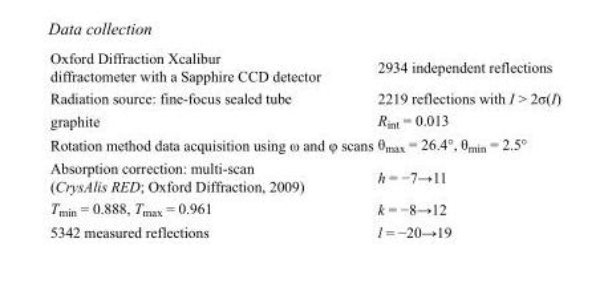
<table><tbody><tr><td>Oxford Diffraction Xcalibur diffractometer with a Sapphire CCD detector</td><td>2934 independent reflections</td></tr><tr><td>Radiation source: fine-focus sealed tube</td><td>2219 reflections with I &gt; 2σ(I)</td></tr><tr><td>graphite</td><td>R<sub>int</sub> = 0.013</td></tr><tr><td>Rotation method data acquisition using ω and φ scans</td><td>θ<sub>max</sub> = 26.4°, θ<sub>min</sub> = 2.5°</td></tr><tr><td>Absorption correction: multi-scan (CrysAlis RED; Oxford Diffraction, 2009)</td><td>h = −7→11</td></tr><tr><td>T<sub>min</sub> = 0.888, T<sub>max</sub> = 0.961</td><td>k = −8→12</td></tr><tr><td>5342 measured reflections</td><td>l = −20→19</td></tr></tbody></table>